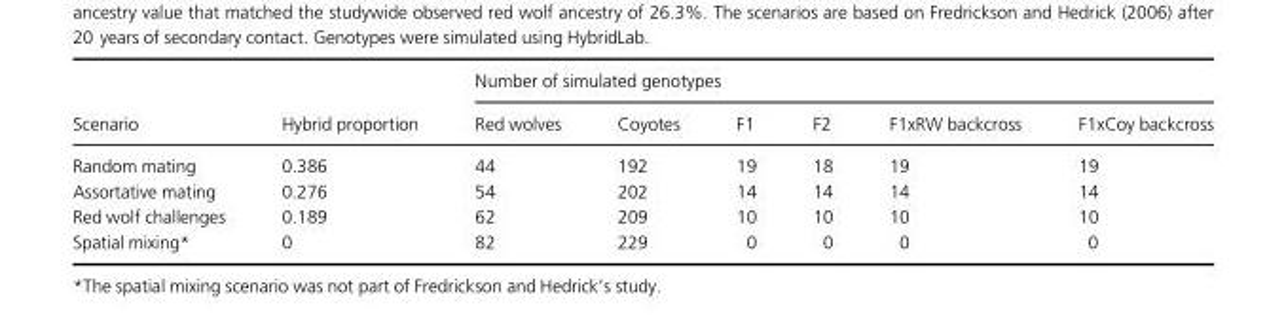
<table><thead><tr><td rowspan="2">Scenario</td><td rowspan="2">Hybrid proportion</td><td colspan="6">Number of simulated genotypes</td></tr><tr><td>Red wolves</td><td>Coyotes</td><td>F1</td><td>F2</td><td>F1xRW backcross</td><td>F1xCoy backcross</td></tr></thead><tbody><tr><td>Random mating</td><td>0.386</td><td>44</td><td>192</td><td>19</td><td>18</td><td>19</td><td>19</td></tr><tr><td>Assortative mating</td><td>0.276</td><td>54</td><td>202</td><td>14</td><td>14</td><td>14</td><td>14</td></tr><tr><td>Red wolf challenges</td><td>0.189</td><td>62</td><td>209</td><td>10</td><td>10</td><td>10</td><td>10</td></tr><tr><td>Spatial mixing*</td><td>0</td><td>82</td><td>229</td><td>0</td><td>0</td><td>0</td><td>0</td></tr></tbody></table>